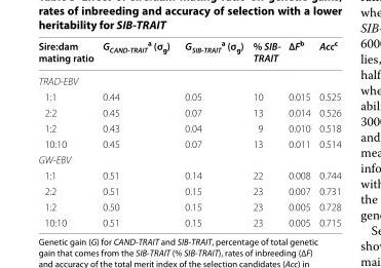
<table><thead><tr><td>Sire:dam mating ratio</td><td>G<sub>CAND-TRAIT</sub> <sup>a</sup> (σ<sub>g</sub>)</td><td>G<sub>SIB-TRAIT</sub> <sup>a</sup> (σ<sub>g</sub>)</td><td>% SIB‑ TRAIT</td><td>∆F<sup>b</sup></td><td>Acc<sup>c</sup></td></tr></thead><tbody><tr><td colspan="6">TRAD-EBV</td></tr><tr><td>1:1</td><td>0.44</td><td>0.05</td><td>10</td><td>0.015</td><td>0.525</td></tr><tr><td>2:2</td><td>0.45</td><td>0.07</td><td>13</td><td>0.014</td><td>0.526</td></tr><tr><td>1:2</td><td>0.43</td><td>0.04</td><td>9</td><td>0.010</td><td>0.518</td></tr><tr><td>10:10</td><td>0.45</td><td>0.07</td><td>13</td><td>0.011</td><td>0.514</td></tr><tr><td colspan="6">GW-EBV</td></tr><tr><td>1:1</td><td>0.51</td><td>0.14</td><td>22</td><td>0.008</td><td>0.744</td></tr><tr><td>2:2</td><td>0.51</td><td>0.15</td><td>23</td><td>0.007</td><td>0.731</td></tr><tr><td>1:2</td><td>0.50</td><td>0.15</td><td>23</td><td>0.005</td><td>0.728</td></tr><tr><td>10:10</td><td>0.51</td><td>0.15</td><td>23</td><td>0.005</td><td>0.715</td></tr></tbody></table>